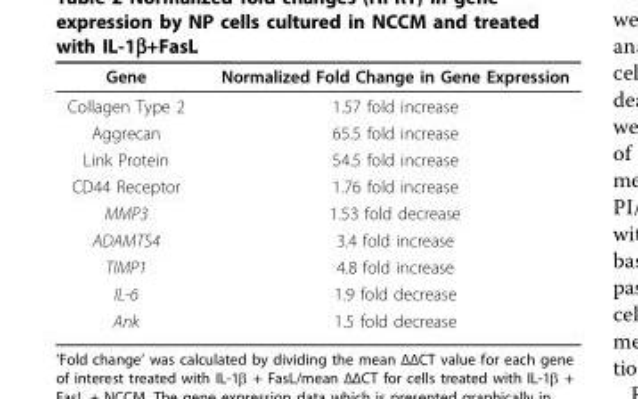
<table><thead><tr><td>Gene</td><td>Normalized Fold Change in Gene Expression</td></tr></thead><tbody><tr><td>Collagen Type 2</td><td>1.57 fold increase</td></tr><tr><td>Aggrecan</td><td>65.5 fold increase</td></tr><tr><td>Link Protein</td><td>54.5 fold increase</td></tr><tr><td>CD44 Receptor</td><td>1.76 fold increase</td></tr><tr><td>MMP3</td><td>1.53 fold decrease</td></tr><tr><td>ADAMTS4</td><td>3.4 fold increase</td></tr><tr><td>TIMP1</td><td>4.8 fold increase</td></tr><tr><td>IL-6</td><td>1.9 fold decrease</td></tr><tr><td>Ank</td><td>1.5 fold decrease</td></tr></tbody></table>